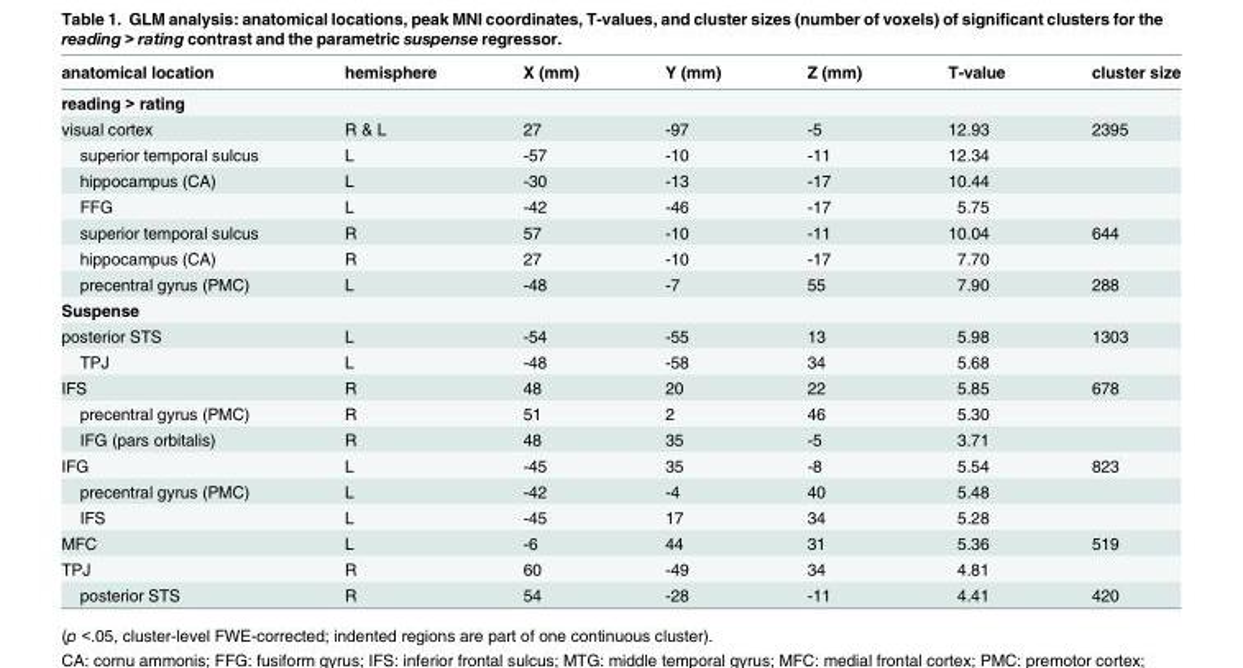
<table><thead><tr><td>anatomical location</td><td>hemisphere</td><td>X (mm)</td><td>Y (mm)</td><td>Z (mm)</td><td>T-value</td><td>cluster size</td></tr></thead><tbody><tr><td colspan="7">reading &gt; rating</td></tr><tr><td>visual cortex</td><td>R &amp; L</td><td>27</td><td>-97</td><td>-5</td><td>12.93</td><td>2395</td></tr><tr><td>superior temporal sulcus</td><td>L</td><td>-57</td><td>-10</td><td>-11</td><td>12.34</td><td></td></tr><tr><td>hippocampus (CA)</td><td>L</td><td>-30</td><td>-13</td><td>-17</td><td>10.44</td><td></td></tr><tr><td>FFG</td><td>L</td><td>-42</td><td>-46</td><td>-17</td><td>5.75</td><td></td></tr><tr><td>superior temporal sulcus</td><td>R</td><td>57</td><td>-10</td><td>-11</td><td>10.04</td><td>644</td></tr><tr><td>hippocampus (CA)</td><td>R</td><td>27</td><td>-10</td><td>-17</td><td>7.70</td><td></td></tr><tr><td>precentral gyrus (PMC)</td><td>L</td><td>-48</td><td>-7</td><td>55</td><td>7.90</td><td>288</td></tr><tr><td colspan="7">Suspense</td></tr><tr><td>posterior STS</td><td>L</td><td>-54</td><td>-55</td><td>13</td><td>5.98</td><td>1303</td></tr><tr><td>TPJ</td><td>L</td><td>-48</td><td>-58</td><td>34</td><td>5.68</td><td></td></tr><tr><td>IFS</td><td>R</td><td>48</td><td>20</td><td>22</td><td>5.85</td><td>678</td></tr><tr><td>precentral gyrus (PMC)</td><td>R</td><td>51</td><td>2</td><td>46</td><td>5.30</td><td></td></tr><tr><td>IFG (pars orbitalis)</td><td>R</td><td>48</td><td>35</td><td>-5</td><td>3.71</td><td></td></tr><tr><td>IFG</td><td>L</td><td>-45</td><td>35</td><td>-8</td><td>5.54</td><td>823</td></tr><tr><td>precentral gyrus (PMC)</td><td>L</td><td>-42</td><td>-4</td><td>40</td><td>5.48</td><td></td></tr><tr><td>IFS</td><td>L</td><td>-45</td><td>17</td><td>34</td><td>5.28</td><td></td></tr><tr><td>MFC</td><td>L</td><td>-6</td><td>44</td><td>31</td><td>5.36</td><td>519</td></tr><tr><td>TPJ</td><td>R</td><td>60</td><td>-49</td><td>34</td><td>4.81</td><td></td></tr><tr><td>posterior STS</td><td>R</td><td>54</td><td>-28</td><td>-11</td><td>4.41</td><td>420</td></tr></tbody></table>